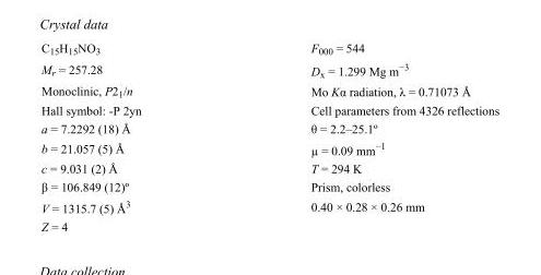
<table><tbody><tr><td>C<sub>15</sub>H<sub>15</sub>NO<sub>3</sub></td><td>F000 = 544</td></tr><tr><td>M<sub>r</sub> = 257.28</td><td>D<sub>x</sub> = 1.299 Mg m<sup>−3</sup></td></tr><tr><td>Monoclinic, P2<sub>1</sub>/n</td><td>Mo Kα radiation, λ = 0.71073 Å</td></tr><tr><td>Hall symbol: -P 2yn</td><td>Cell parameters from 4326 reflections</td></tr><tr><td>a = 7.2292 (18) Å</td><td>θ = 2.2–25.1º</td></tr><tr><td>b = 21.057 (5) Å</td><td>µ = 0.09 mm<sup>−1</sup></td></tr><tr><td>c = 9.031 (2) Å</td><td>T = 294 K</td></tr><tr><td>β = 106.849 (12)º</td><td>Prism, colorless</td></tr><tr><td>V = 1315.7 (5) Å<sup>3</sup></td><td>0.40 × 0.28 × 0.26 mm</td></tr><tr><td>Z = 4</td><td></td></tr></tbody></table>